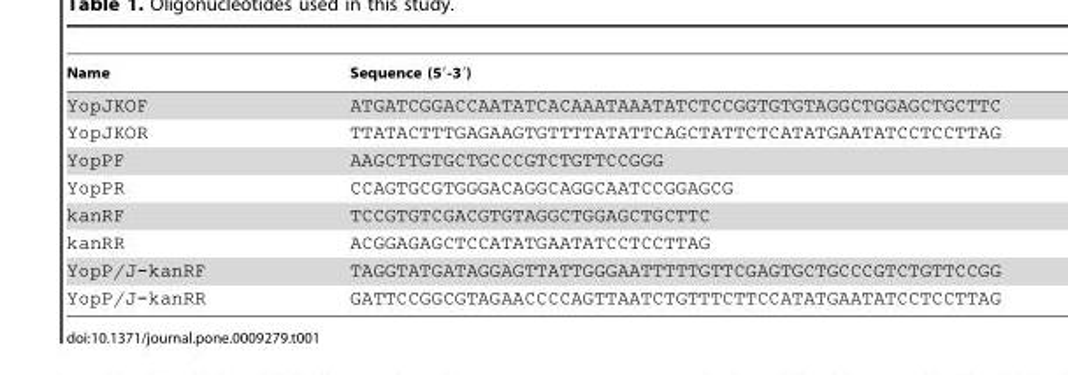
<table><thead><tr><td>Name</td><td>Sequence (5′-3′)</td></tr></thead><tbody><tr><td>YopJKOF</td><td>ATGATCGGACCAATATCACAAATAAATATCTCCGGTGTGTAGGCTGGAGCTGCTTC</td></tr><tr><td>YopJKOR</td><td>TTATACTTTGAGAAGTGTTTTATATTCAGCTATTCTCATATGAATATCCTCCTTAG</td></tr><tr><td>YopPF</td><td>AAGCTTGTGCTGCCCGTCTGTTCCGGG</td></tr><tr><td>YopPR</td><td>CCAGTGCGTGGGACAGGCAGGCAATCCGGAGCG</td></tr><tr><td>kanRF</td><td>TCCGTGTCGACGTGTAGGCTGGAGCTGCTTC</td></tr><tr><td>kanRR</td><td>ACGGAGAGCTCCATATGAATATCCTCCTTAG</td></tr><tr><td>YopP/J-kanRF</td><td>TAGGTATGATAGGAGTTATTGGGAATTTTTGTTCGAGTGCTGCCCGTCTGTTCCGG</td></tr><tr><td>YopP/J-kanRR</td><td>GATTCCGGCGTAGAACCCCAGTTAATCTGTTTCTTCCATATGAATATCCTCCTTAG</td></tr></tbody></table>